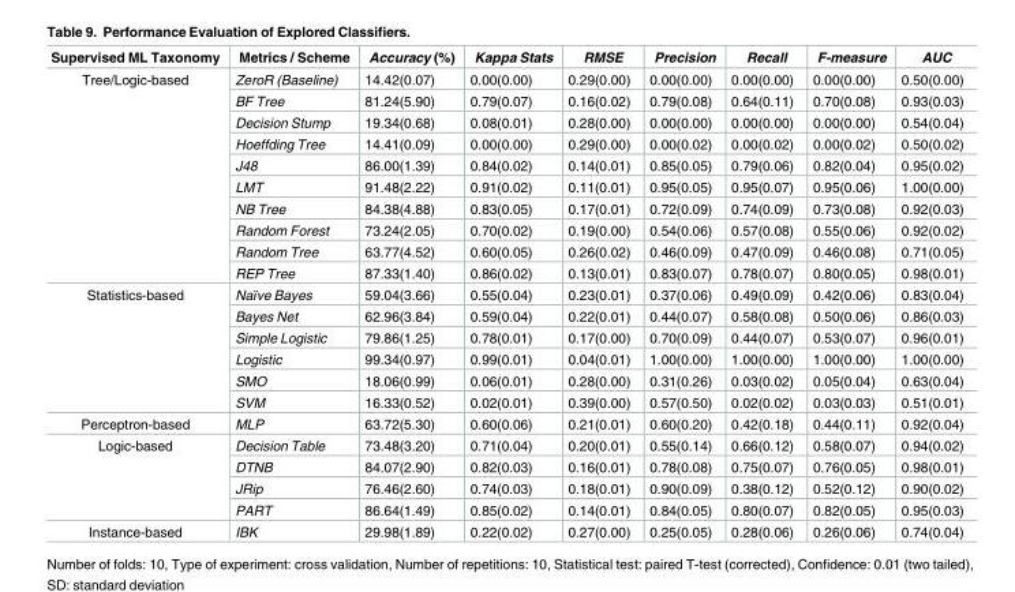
<table><thead><tr><td>Supervised ML Taxonomy</td><td>Metrics / Scheme</td><td>Accuracy (%)</td><td>Kappa Stats</td><td>RMSE</td><td>Precision</td><td>Recall</td><td>F-measure</td><td>AUC</td></tr></thead><tbody><tr><td rowspan="10">Tree/Logic-based</td><td>ZeroR (Baseline)</td><td>14.42(0.07)</td><td>0.00(0.00)</td><td>0.29(0.00)</td><td>0.00(0.00)</td><td>0.00(0.00)</td><td>0.00(0.00)</td><td>0.50(0.00)</td></tr><tr><td>BF Tree</td><td>81.24(5.90)</td><td>0.79(0.07)</td><td>0.16(0.02)</td><td>0.79(0.08)</td><td>0.64(0.11)</td><td>0.70(0.08)</td><td>0.93(0.03)</td></tr><tr><td>Decision Stump</td><td>19.34(0.68)</td><td>0.08(0.01)</td><td>0.28(0.00)</td><td>0.00(0.00)</td><td>0.00(0.00)</td><td>0.00(0.00)</td><td>0.54(0.04)</td></tr><tr><td>Hoeffding Tree</td><td>14.41(0.09)</td><td>0.00(0.00)</td><td>0.29(0.00)</td><td>0.00(0.02)</td><td>0.00(0.02)</td><td>0.00(0.02)</td><td>0.50(0.02)</td></tr><tr><td>J48</td><td>86.00(1.39)</td><td>0.84(0.02)</td><td>0.14(0.01)</td><td>0.85(0.05)</td><td>0.79(0.06)</td><td>0.82(0.04)</td><td>0.95(0.02)</td></tr><tr><td>LMT</td><td>91.48(2.22)</td><td>0.91(0.02)</td><td>0.11(0.01)</td><td>0.95(0.05)</td><td>0.95(0.07)</td><td>0.95(0.06)</td><td>1.00(0.00)</td></tr><tr><td>NB Tree</td><td>84.38(4.88)</td><td>0.83(0.05)</td><td>0.17(0.01)</td><td>0.72(0.09)</td><td>0.74(0.09)</td><td>0.73(0.08)</td><td>0.92(0.03)</td></tr><tr><td>Random Forest</td><td>73.24(2.05)</td><td>0.70(0.02)</td><td>0.19(0.00)</td><td>0.54(0.06)</td><td>0.57(0.08)</td><td>0.55(0.06)</td><td>0.92(0.02)</td></tr><tr><td>Random Tree</td><td>63.77(4.52)</td><td>0.60(0.05)</td><td>0.26(0.02)</td><td>0.46(0.09)</td><td>0.47(0.09)</td><td>0.46(0.08)</td><td>0.71(0.05)</td></tr><tr><td>REP Tree</td><td>87.33(1.40)</td><td>0.86(0.02)</td><td>0.13(0.01)</td><td>0.83(0.07)</td><td>0.78(0.07)</td><td>0.80(0.05)</td><td>0.98(0.01)</td></tr><tr><td rowspan="6">Statistics-based</td><td>Naïve Bayes</td><td>59.04(3.66)</td><td>0.55(0.04)</td><td>0.23(0.01)</td><td>0.37(0.06)</td><td>0.49(0.09)</td><td>0.42(0.06)</td><td>0.83(0.04)</td></tr><tr><td>Bayes Net</td><td>62.96(3.84)</td><td>0.59(0.04)</td><td>0.22(0.01)</td><td>0.44(0.07)</td><td>0.58(0.08)</td><td>0.50(0.06)</td><td>0.86(0.03)</td></tr><tr><td>Simple Logistic</td><td>79.86(1.25)</td><td>0.78(0.01)</td><td>0.17(0.00)</td><td>0.70(0.09)</td><td>0.44(0.07)</td><td>0.53(0.07)</td><td>0.96(0.01)</td></tr><tr><td>Logistic</td><td>99.34(0.97)</td><td>0.99(0.01)</td><td>0.04(0.01)</td><td>1.00(0.00)</td><td>1.00(0.00)</td><td>1.00(0.00)</td><td>1.00(0.00)</td></tr><tr><td>SMO</td><td>18.06(0.99)</td><td>0.06(0.01)</td><td>0.28(0.00)</td><td>0.31(0.26)</td><td>0.03(0.02)</td><td>0.05(0.04)</td><td>0.63(0.04)</td></tr><tr><td>SVM</td><td>16.33(0.52)</td><td>0.02(0.01)</td><td>0.39(0.00)</td><td>0.57(0.50)</td><td>0.02(0.02)</td><td>0.03(0.03)</td><td>0.51(0.01)</td></tr><tr><td>Perceptron-based</td><td>MLP</td><td>63.72(5.30)</td><td>0.60(0.06)</td><td>0.21(0.01)</td><td>0.60(0.20)</td><td>0.42(0.18)</td><td>0.44(0.11)</td><td>0.92(0.04)</td></tr><tr><td rowspan="4">Logic-based</td><td>Decision Table</td><td>73.48(3.20)</td><td>0.71(0.04)</td><td>0.20(0.01)</td><td>0.55(0.14)</td><td>0.66(0.12)</td><td>0.58(0.07)</td><td>0.94(0.02)</td></tr><tr><td>DTNB</td><td>84.07(2.90)</td><td>0.82(0.03)</td><td>0.16(0.01)</td><td>0.78(0.08)</td><td>0.75(0.07)</td><td>0.76(0.05)</td><td>0.98(0.01)</td></tr><tr><td>JRip</td><td>76.46(2.60)</td><td>0.74(0.03)</td><td>0.18(0.01)</td><td>0.90(0.09)</td><td>0.38(0.12)</td><td>0.52(0.12)</td><td>0.90(0.02)</td></tr><tr><td>PART</td><td>86.64(1.49)</td><td>0.85(0.02)</td><td>0.14(0.01)</td><td>0.84(0.05)</td><td>0.80(0.07)</td><td>0.82(0.05)</td><td>0.95(0.03)</td></tr><tr><td>Instance-based</td><td>IBK</td><td>29.98(1.89)</td><td>0.22(0.02)</td><td>0.27(0.00)</td><td>0.25(0.05)</td><td>0.28(0.06)</td><td>0.26(0.06)</td><td>0.74(0.04)</td></tr></tbody></table>